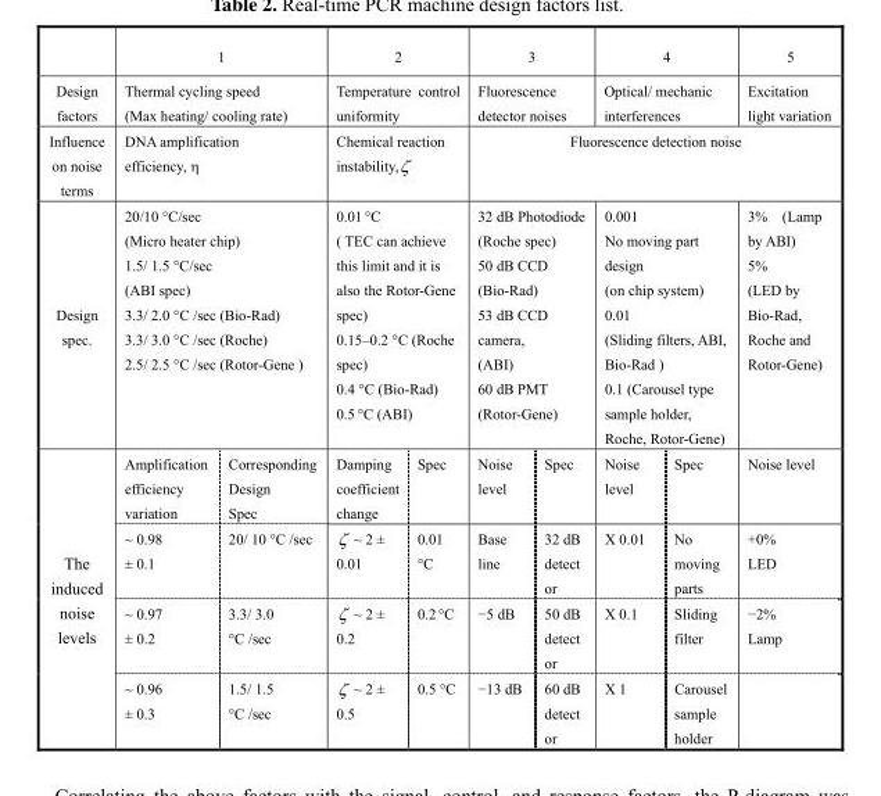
<table><thead><tr><td></td><td colspan="2">1</td><td colspan="2">2</td><td colspan="2">3</td><td colspan="2">4</td><td>5</td></tr></thead><tbody><tr><td>Design factors</td><td colspan="2">Thermal cycling speed (Max heating/ cooling rate)</td><td colspan="2">Temperature control uniformity</td><td colspan="2">Fluorescence detector noises</td><td colspan="2">Optical/ mechanic interferences</td><td>Excitation light variation</td></tr><tr><td>Influence on noise terms</td><td colspan="2">DNA amplification efficiency, η</td><td colspan="2">Chemical reaction instability,ζ</td><td colspan="5">Fluorescence detection noise</td></tr><tr><td>Design spec.</td><td colspan="2">20/10 °C/sec (Micro heater chip) 1.5/ 1.5 °C/sec (ABI spec) 3.3/ 2.0 °C /sec (Bio-Rad) 3.3/ 3.0 °C /sec (Roche) 2.5/ 2.5 °C /sec (Rotor-Gene )</td><td colspan="2">0.01 °C ( TEC can achieve this limit and it is also the Rotor-Gene spec) 0.15–0.2 °C (Roche spec) 0.4 °C (Bio-Rad) 0.5 °C (ABI)</td><td colspan="2">32 dB Photodiode (Roche spec) 50 dB CCD (Bio-Rad) 53 dB CCD camera, (ABI) 60 dB PMT (Rotor-Gene)</td><td colspan="2">0.001 No moving part design (on chip system) 0.01 (Sliding filters, ABI, Bio-Rad ) 0.1 (Carousel type sample holder, Roche, Rotor-Gene)</td><td>3% (Lamp by ABI) 5% (LED by Bio-Rad, Roche and Rotor-Gene)</td></tr><tr><td rowspan="4">The induced noise levels</td><td>Amplification efficiency variation</td><td>Corresponding Design Spec</td><td>Damping coefficient change</td><td>Spec</td><td>Noise level</td><td>Spec</td><td>Noise level</td><td>Spec</td><td>Noise level</td></tr><tr><td>~ 0.98 ± 0.1</td><td>20/ 10 °C /sec</td><td>ζ ~ 2 ± 0.01</td><td>0.01 °C</td><td>Base line</td><td>32 dB detect or</td><td>X 0.01</td><td>No moving parts</td><td>+0% LED</td></tr><tr><td>~ 0.97 ± 0.2</td><td>3.3/ 3.0 °C /sec</td><td>ζ ~ 2 ± 0.2</td><td>0.2 °C</td><td>−5 dB</td><td>50 dB detect or</td><td>X 0.1</td><td>Sliding filter</td><td>−2% Lamp</td></tr><tr><td>~ 0.96 ± 0.3</td><td>1.5/ 1.5 °C /sec</td><td>ζ ~ 2 ± 0.5</td><td>0.5 °C</td><td>−13 dB</td><td>60 dB detect or</td><td>X 1</td><td>Carousel sample holder</td><td></td></tr></tbody></table>